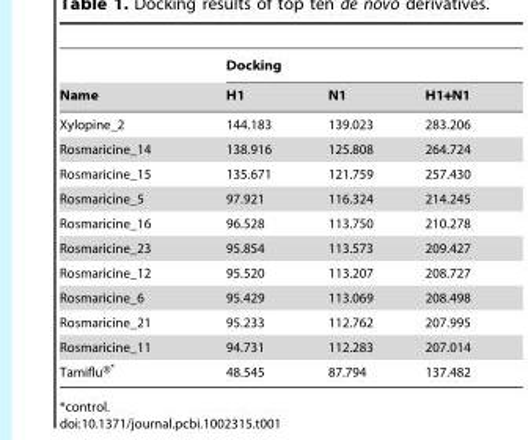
<table><thead><tr><td rowspan="2">Name</td><td colspan="3">Docking</td></tr><tr><td>H1</td><td>N1</td><td>H1+N1</td></tr></thead><tbody><tr><td>Xylopine_2</td><td>144.183</td><td>139.023</td><td>283.206</td></tr><tr><td>Rosmaricine_14</td><td>138.916</td><td>125.808</td><td>264.724</td></tr><tr><td>Rosmaricine_15</td><td>135.671</td><td>121.759</td><td>257.430</td></tr><tr><td>Rosmaricine_5</td><td>97.921</td><td>116.324</td><td>214.245</td></tr><tr><td>Rosmaricine_16</td><td>96.528</td><td>113.750</td><td>210.278</td></tr><tr><td>Rosmaricine_23</td><td>95.854</td><td>113.573</td><td>209.427</td></tr><tr><td>Rosmaricine_12</td><td>95.520</td><td>113.207</td><td>208.727</td></tr><tr><td>Rosmaricine_6</td><td>95.429</td><td>113.069</td><td>208.498</td></tr><tr><td>Rosmaricine_21</td><td>95.233</td><td>112.762</td><td>207.995</td></tr><tr><td>Rosmaricine_11</td><td>94.731</td><td>112.283</td><td>207.014</td></tr><tr><td>Tamiflu®*</td><td>48.545</td><td>87.794</td><td>137.482</td></tr></tbody></table>